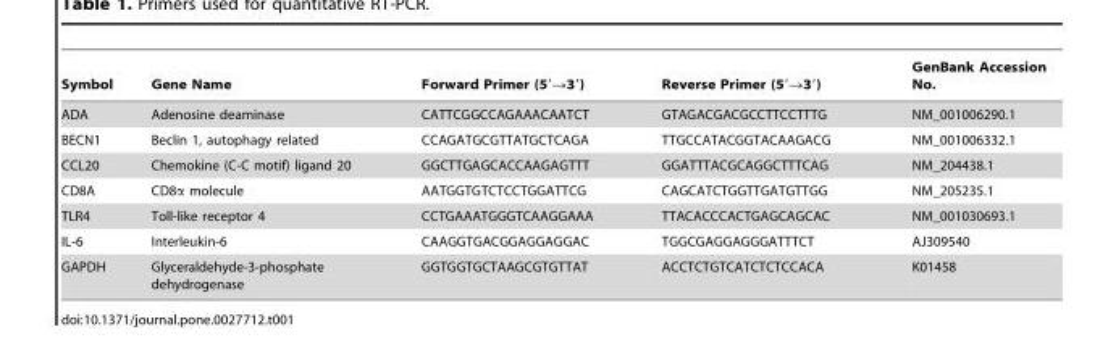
<table><thead><tr><td>Symbol</td><td>Gene Name</td><td>Forward Primer (5′→3′)</td><td>Reverse Primer (5′→3′)</td><td>GenBank Accession No.</td></tr></thead><tbody><tr><td>ADA</td><td>Adenosine deaminase</td><td>CATTCGGCCAGAAACAATCT</td><td>GTAGACGACGCCTTCCTTTG</td><td>NM_001006290.1</td></tr><tr><td>BECN1</td><td>Beclin 1, autophagy related</td><td>CCAGATGCGTTATGCTCAGA</td><td>TTGCCATACGGTACAAGACG</td><td>NM_001006332.1</td></tr><tr><td>CCL20</td><td>Chemokine (C-C motif) ligand 20</td><td>GGCTTGAGCACCAAGAGTTT</td><td>GGATTTACGCAGGCTTTCAG</td><td>NM_204438.1</td></tr><tr><td>CD8A</td><td>CD8α molecule</td><td>AATGGTGTCTCCTGGATTCG</td><td>CAGCATCTGGTTGATGTTGG</td><td>NM_205235.1</td></tr><tr><td>TLR4</td><td>Toll-like receptor 4</td><td>CCTGAAATGGGTCAAGGAAA</td><td>TTACACCCACTGAGCAGCAC</td><td>NM_001030693.1</td></tr><tr><td>IL-6</td><td>Interleukin-6</td><td>CAAGGTGACGGAGGAGGAC</td><td>TGGCGAGGAGGGATTTCT</td><td>AJ309540</td></tr><tr><td>GAPDH</td><td>Glyceraldehyde-3-phosphate dehydrogenase</td><td>GGTGGTGCTAAGCGTGTTAT</td><td>ACCTCTGTCATCTCTCCACA</td><td>K01458</td></tr></tbody></table>